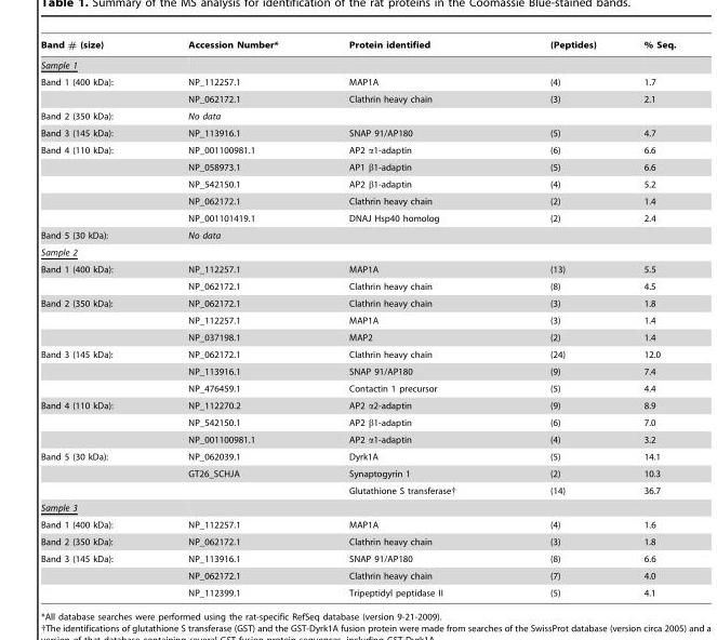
<table><thead><tr><td>Band # (size)</td><td>Accession Number*</td><td>Protein identified</td><td>(Peptides)</td><td>% Seq.</td></tr></thead><tbody><tr><td colspan="5">Sample 1</td></tr><tr><td rowspan="2">Band 1 (400 kDa):</td><td>NP_112257.1</td><td>MAP1A</td><td>(4)</td><td>1.7</td></tr><tr><td>NP_062172.1</td><td>Clathrin heavy chain</td><td>(3)</td><td>2.1</td></tr><tr><td>Band 2 (350 kDa):</td><td>No data</td><td></td><td></td><td></td></tr><tr><td>Band 3 (145 kDa):</td><td>NP_113916.1</td><td>SNAP 91/AP180</td><td>(5)</td><td>4.7</td></tr><tr><td rowspan="5">Band 4 (110 kDa):</td><td>NP_001100981.1</td><td>AP2 α1-adaptin</td><td>(6)</td><td>6.6</td></tr><tr><td>NP_058973.1</td><td>AP1 β1-adaptin</td><td>(5)</td><td>6.6</td></tr><tr><td>NP_542150.1</td><td>AP2 β1-adaptin</td><td>(4)</td><td>5.2</td></tr><tr><td>NP_062172.1</td><td>Clathrin heavy chain</td><td>(2)</td><td>1.4</td></tr><tr><td>NP_001101419.1</td><td>DNAJ Hsp40 homolog</td><td>(2)</td><td>2.4</td></tr><tr><td>Band 5 (30 kDa):</td><td>No data</td><td></td><td></td><td></td></tr><tr><td colspan="5">Sample 2</td></tr><tr><td rowspan="2">Band 1 (400 kDa):</td><td>NP_112257.1</td><td>MAP1A</td><td>(13)</td><td>5.5</td></tr><tr><td>NP_062172.1</td><td>Clathrin heavy chain</td><td>(8)</td><td>4.5</td></tr><tr><td rowspan="3">Band 2 (350 kDa):</td><td>NP_062172.1</td><td>Clathrin heavy chain</td><td>(3)</td><td>1.8</td></tr><tr><td>NP_112257.1</td><td>MAP1A</td><td>(3)</td><td>1.4</td></tr><tr><td>NP_037198.1</td><td>MAP2</td><td>(2)</td><td>1.4</td></tr><tr><td rowspan="3">Band 3 (145 kDa):</td><td>NP_062172.1</td><td>Clathrin heavy chain</td><td>(24)</td><td>12.0</td></tr><tr><td>NP_113916.1</td><td>SNAP 91/AP180</td><td>(9)</td><td>7.4</td></tr><tr><td>NP_476459.1</td><td>Contactin 1 precursor</td><td>(5)</td><td>4.4</td></tr><tr><td rowspan="3">Band 4 (110 kDa):</td><td>NP_112270.2</td><td>AP2 α2-adaptin</td><td>(9)</td><td>8.9</td></tr><tr><td>NP_542150.1</td><td>AP2 β1-adaptin</td><td>(6)</td><td>7.0</td></tr><tr><td>NP_001100981.1</td><td>AP2 α1-adaptin</td><td>(4)</td><td>3.2</td></tr><tr><td rowspan="3">Band 5 (30 kDa):</td><td>NP_062039.1</td><td>Dyrk1A</td><td>(5)</td><td>14.1</td></tr><tr><td>GT26_SCHJA</td><td>Synaptogyrin 1</td><td>(2)</td><td>10.3</td></tr><tr><td></td><td>Glutathione S transferase†</td><td>(14)</td><td>36.7</td></tr><tr><td colspan="5">Sample 3</td></tr><tr><td>Band 1 (400 kDa):</td><td>NP_112257.1</td><td>MAP1A</td><td>(4)</td><td>1.6</td></tr><tr><td>Band 2 (350 kDa):</td><td>NP_062172.1</td><td>Clathrin heavy chain</td><td>(3)</td><td>1.8</td></tr><tr><td rowspan="3">Band 3 (145 kDa):</td><td>NP_113916.1</td><td>SNAP 91/AP180</td><td>(8)</td><td>6.6</td></tr><tr><td>NP_062172.1</td><td>Clathrin heavy chain</td><td>(7)</td><td>4.0</td></tr><tr><td>NP_112399.1</td><td>Tripeptidyl peptidase II</td><td>(5)</td><td>4.1</td></tr></tbody></table>